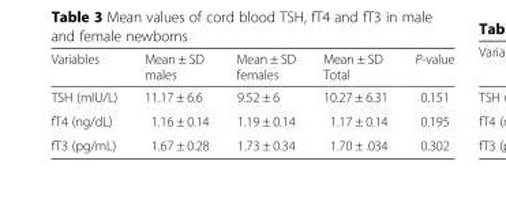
<table><thead><tr><td>Variables</td><td>Mean ± SD males</td><td>Mean ± SD females</td><td>Mean ± SD Total</td><td>P-value</td></tr></thead><tbody><tr><td>TSH (mIU/L)</td><td>11.17 ± 6.6</td><td>9.52 ± 6</td><td>10.27 ± 6.31</td><td>0.151</td></tr><tr><td>fT4 (ng/dL)</td><td>1.16 ± 0.14</td><td>1.19 ± 0.14</td><td>1.17 ± 0.14</td><td>0.195</td></tr><tr><td>fT3 (pg/mL)</td><td>1.67 ± 0.28</td><td>1.73 ± 0.34</td><td>1.70 ± .034</td><td>0.302</td></tr></tbody></table>